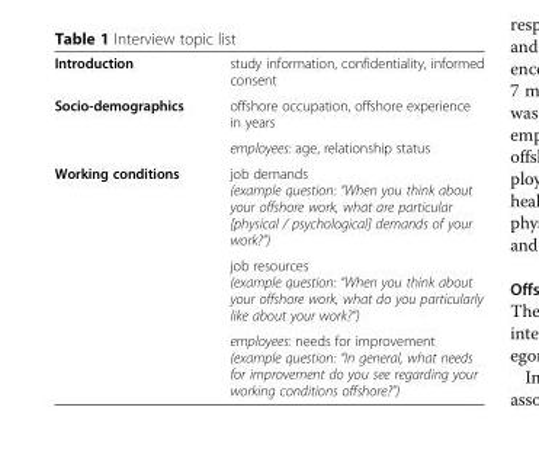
<table><tbody><tr><td>Introduction</td><td>study information, confidentiality, informed consent</td></tr><tr><td rowspan="2">Socio-demographics</td><td>offshore occupation, offshore experience in years</td></tr><tr><td>employees: age, relationship status</td></tr><tr><td rowspan="3">Working conditions</td><td>job demands (example question: “When you think about your offshore work, what are particular [physical / psychological] demands of your work?”)</td></tr><tr><td>job resources (example question: “When you think about your offshore work, what do you particularly like about your work?”)</td></tr><tr><td>employees: needs for improvement (example question: “In general, what needs for improvement do you see regarding your working conditions offshore?”)</td></tr></tbody></table>